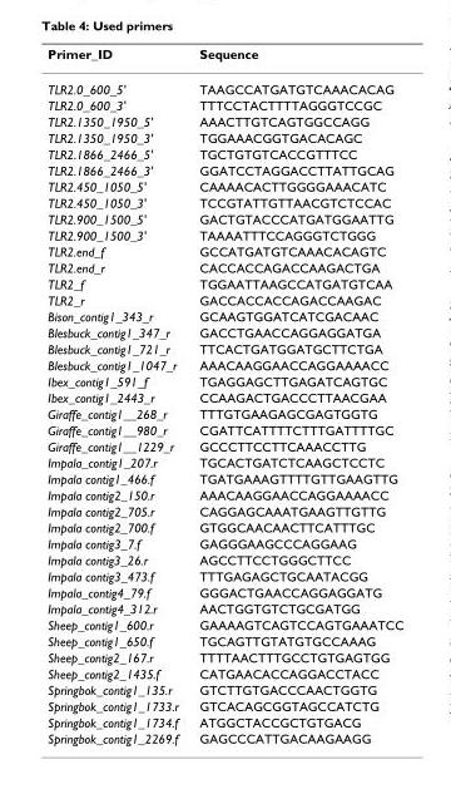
<table><thead><tr><td>Primer_ID</td><td>Sequence</td></tr></thead><tbody><tr><td>TLR2.0_600_5&#x27;</td><td>TAAGCCATGATGTCAAACACAG</td></tr><tr><td>TLR2.0_600_3&#x27;</td><td>TTTCCTACTTTTAGGGTCCGC</td></tr><tr><td>TLR2.1350_1950_5&#x27;</td><td>AAACTTGTCAGTGGCCAGG</td></tr><tr><td>TLR2.1350_1950_3&#x27;</td><td>TGGAAACGGTGACACAGC</td></tr><tr><td>TLR2.1866_2466_5&#x27;</td><td>TGCTGTGTCACCGTTTCC</td></tr><tr><td>TLR2.1866_2466_3&#x27;</td><td>GGATCCTAGGACCTTATTGCAG</td></tr><tr><td>TLR2.450_1050_5&#x27;</td><td>CAAAACACTTGGGGAAACATC</td></tr><tr><td>TLR2.450_1050_3&#x27;</td><td>TCCGTATTGTTAACGTCTCCAC</td></tr><tr><td>TLR2.900_1500_5&#x27;</td><td>GACTGTACCCATGATGGAATTG</td></tr><tr><td>TLR2.900_1500_3&#x27;</td><td>TAAAATTTCCAGGGTCTGGG</td></tr><tr><td>TLR2.end_f</td><td>GCCATGATGTCAAACACAGTC</td></tr><tr><td>TLR2.end_r</td><td>CACCACCAGACCAAGACTGA</td></tr><tr><td>TLR2_f</td><td>TGGAATTAAGCCATGATGTCAA</td></tr><tr><td>TLR2_r</td><td>GACCACCACCAGACCAAGAC</td></tr><tr><td>Bison_contig1_343_r</td><td>GCAAGTGGATCATCGACAAC</td></tr><tr><td>Blesbuck_contig1_347_r</td><td>GACCTGAACCAGGAGGATGA</td></tr><tr><td>Blesbuck_contig1_721_r</td><td>TTCACTGATGGATGCTTCTGA</td></tr><tr><td>Blesbuck_contig1_1047_r</td><td>AAACAAGGAACCAGGAAAACC</td></tr><tr><td>Ibex_contig1_591_f</td><td>TGAGGAGCTTGAGATCAGTGC</td></tr><tr><td>Ibex_contig1_2443_r</td><td>CCAAGACTGACCCTTAACGAA</td></tr><tr><td>Giraffe_contig1__268_r</td><td>TTTGTGAAGAGCGAGTGGTG</td></tr><tr><td>Giraffe_contig1__980_r</td><td>CGATTCATTTTCTTTGATTTTGC</td></tr><tr><td>Giraffe_contig1__1229_r</td><td>GCCCTTCCTTCAAACCTTG</td></tr><tr><td>Impala_contig1_207.r</td><td>TGCACTGATCTCAAGCTCCTC</td></tr><tr><td>Impala contig1_466.f</td><td>TGATGAAAGTTTTGTTGAAGTTG</td></tr><tr><td>Impala contig2_150.r</td><td>AAACAAGGAACCAGGAAAACC</td></tr><tr><td>Impala contig2_705.r</td><td>CAGGAGCAAATGAAGTTGTTG</td></tr><tr><td>Impala contig2_700.f</td><td>GTGGCAACAACTTCATTTGC</td></tr><tr><td>Impala contig3_7.f</td><td>GAGGGAAGCCCAGGAAG</td></tr><tr><td>Impala contig3_26.r</td><td>AGCCTTCCTGGGCTTCC</td></tr><tr><td>Impala contig3_473.f</td><td>TTTGAGAGCTGCAATACGG</td></tr><tr><td>Impala_contig4_79.f</td><td>GGGACTGAACCAGGAGGATG</td></tr><tr><td>Impala_contig4_312.r</td><td>AACTGGTGTCTGCGATGG</td></tr><tr><td>Sheep_contig1_600.r</td><td>GAAAAGTCAGTCCAGTGAAATCC</td></tr><tr><td>Sheep_contig1_650.f</td><td>TGCAGTTGTATGTGCCAAAG</td></tr><tr><td>Sheep_contig2_167.r</td><td>TTTTAACTTTGCCTGTGAGTGG</td></tr><tr><td>Sheep_contig2_1435.f</td><td>CATGAACACCAGGACCTACC</td></tr><tr><td>Springbok_contig1_135.r</td><td>GTCTTGTGACCCAACTGGTG</td></tr><tr><td>Springbok_contig1_1733.r</td><td>GTCACAGCGGTAGCCATCTG</td></tr><tr><td>Springbok_contig1_1734.f</td><td>ATGGCTACCGCTGTGACG</td></tr><tr><td>Springbok_contig1_2269.f</td><td>GAGCCCATTGACAAGAAGG</td></tr></tbody></table>